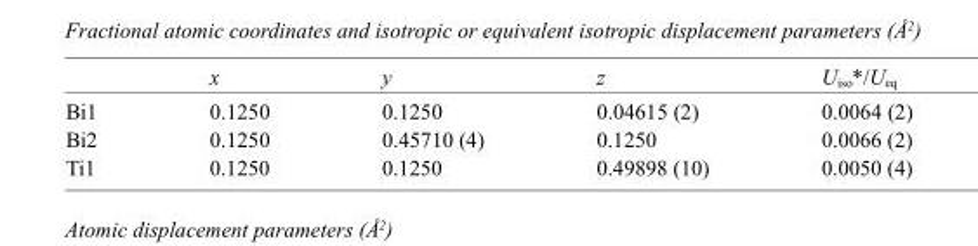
<table><thead><tr><td></td><td>x</td><td>y</td><td>z</td><td>U<sub>iso</sub>*/U<sub>eq</sub></td></tr></thead><tbody><tr><td>Bi1</td><td>0.1250</td><td>0.1250</td><td>0.04615 (2)</td><td>0.0064 (2)</td></tr><tr><td>Bi2</td><td>0.1250</td><td>0.45710 (4)</td><td>0.1250</td><td>0.0066 (2)</td></tr><tr><td>Ti1</td><td>0.1250</td><td>0.1250</td><td>0.49898 (10)</td><td>0.0050 (4)</td></tr></tbody></table>